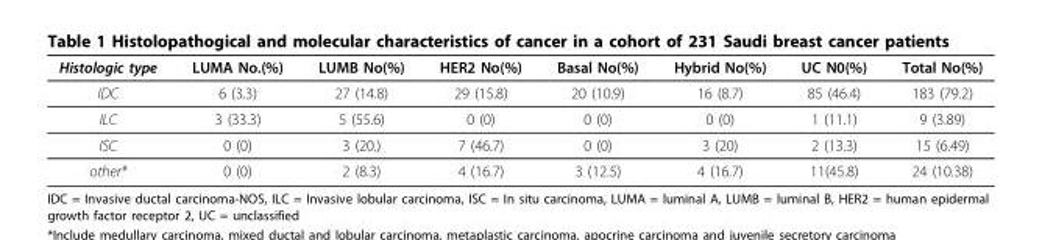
<table><thead><tr><td>Histologic type</td><td>LUMA No.(%)</td><td>LUMB No(%)</td><td>HER2 No(%)</td><td>Basal No(%)</td><td>Hybrid No(%)</td><td>UC N0(%)</td><td>Total No(%)</td></tr></thead><tbody><tr><td>IDC</td><td>6 (3.3)</td><td>27 (14.8)</td><td>29 (15.8)</td><td>20 (10.9)</td><td>16 (8.7)</td><td>85 (46.4)</td><td>183 (79.2)</td></tr><tr><td>ILC</td><td>3 (33.3)</td><td>5 (55.6)</td><td>0 (0)</td><td>0 (0)</td><td>0 (0)</td><td>1 (11.1)</td><td>9 (3.89)</td></tr><tr><td>ISC</td><td>0 (0)</td><td>3 (20.)</td><td>7 (46.7)</td><td>0 (0)</td><td>3 (20)</td><td>2 (13.3)</td><td>15 (6.49)</td></tr><tr><td>other*</td><td>0 (0)</td><td>2 (8.3)</td><td>4 (16.7)</td><td>3 (12.5)</td><td>4 (16.7)</td><td>11(45.8)</td><td>24 (10.38)</td></tr></tbody></table>